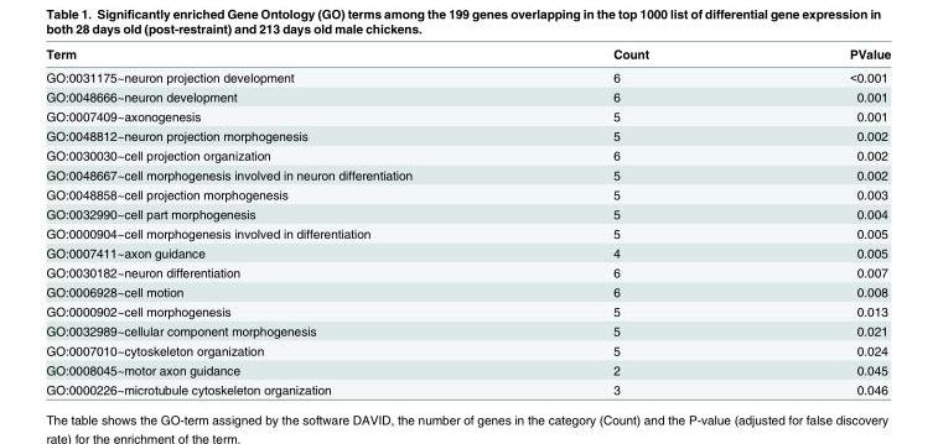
<table><thead><tr><td>Term</td><td>Count</td><td>PValue</td></tr></thead><tbody><tr><td>GO:0031175~neuron projection development</td><td>6</td><td>&lt;0.001</td></tr><tr><td>GO:0048666~neuron development</td><td>6</td><td>0.001</td></tr><tr><td>GO:0007409~axonogenesis</td><td>5</td><td>0.001</td></tr><tr><td>GO:0048812~neuron projection morphogenesis</td><td>5</td><td>0.002</td></tr><tr><td>GO:0030030~cell projection organization</td><td>6</td><td>0.002</td></tr><tr><td>GO:0048667~cell morphogenesis involved in neuron differentiation</td><td>5</td><td>0.002</td></tr><tr><td>GO:0048858~cell projection morphogenesis</td><td>5</td><td>0.003</td></tr><tr><td>GO:0032990~cell part morphogenesis</td><td>5</td><td>0.004</td></tr><tr><td>GO:0000904~cell morphogenesis involved in differentiation</td><td>5</td><td>0.005</td></tr><tr><td>GO:0007411~axon guidance</td><td>4</td><td>0.005</td></tr><tr><td>GO:0030182~neuron differentiation</td><td>6</td><td>0.007</td></tr><tr><td>GO:0006928~cell motion</td><td>6</td><td>0.008</td></tr><tr><td>GO:0000902~cell morphogenesis</td><td>5</td><td>0.013</td></tr><tr><td>GO:0032989~cellular component morphogenesis</td><td>5</td><td>0.021</td></tr><tr><td>GO:0007010~cytoskeleton organization</td><td>5</td><td>0.024</td></tr><tr><td>GO:0008045~motor axon guidance</td><td>2</td><td>0.045</td></tr><tr><td>GO:0000226~microtubule cytoskeleton organization</td><td>3</td><td>0.046</td></tr></tbody></table>